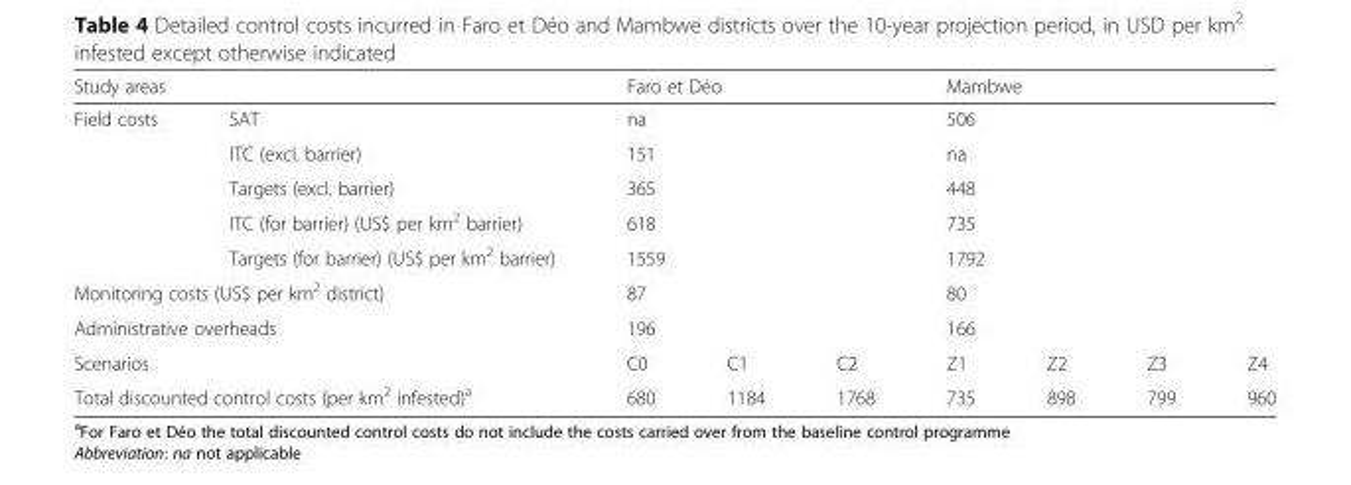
<table><thead><tr><td colspan="2">Study areas</td><td colspan="3">Faro et Déo</td><td colspan="4">Mambwe</td></tr></thead><tbody><tr><td rowspan="5">Field costs</td><td>SAT</td><td colspan="3">na</td><td colspan="4">506</td></tr><tr><td>ITC (excl. barrier)</td><td colspan="3">151</td><td colspan="4">na</td></tr><tr><td>Targets (excl. barrier)</td><td colspan="3">365</td><td colspan="4">448</td></tr><tr><td>ITC (for barrier) (US$ per km<sup>2</sup> barrier)</td><td colspan="3">618</td><td colspan="4">735</td></tr><tr><td>Targets (for barrier) (US$ per km<sup>2</sup> barrier)</td><td colspan="3">1559</td><td colspan="4">1792</td></tr><tr><td colspan="2">Monitoring costs (US$ per km<sup>2</sup> district)</td><td colspan="3">87</td><td colspan="4">80</td></tr><tr><td colspan="2">Administrative overheads</td><td colspan="3">196</td><td colspan="4">166</td></tr><tr><td colspan="2">Scenarios</td><td>C0</td><td>C1</td><td>C2</td><td>Z1</td><td>Z2</td><td>Z3</td><td>Z4</td></tr><tr><td colspan="2">Total discounted control costs (per km<sup>2</sup> infested)<sup>a</sup></td><td>680</td><td>1184</td><td>1768</td><td>735</td><td>898</td><td>799</td><td>960</td></tr></tbody></table>